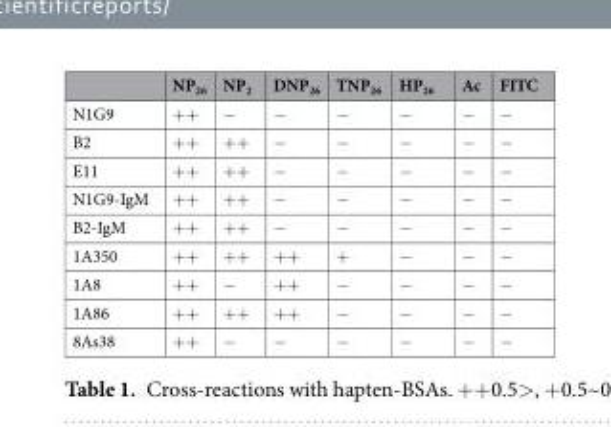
<table><thead><tr><td></td><td>NP<sub>26</sub></td><td>NP<sub>2</sub></td><td>DNP<sub>26</sub></td><td>TNP<sub>26</sub></td><td>HP<sub>26</sub></td><td>Ac</td><td>FITC</td></tr></thead><tbody><tr><td>N1G9</td><td>++</td><td>−</td><td>−</td><td>−</td><td>−</td><td>−</td><td>−</td></tr><tr><td>B2</td><td>++</td><td>++</td><td>−</td><td>−</td><td>−</td><td>−</td><td>−</td></tr><tr><td>E11</td><td>++</td><td>++</td><td>−</td><td>−</td><td>−</td><td>−</td><td>−</td></tr><tr><td>N1G9-IgM</td><td>++</td><td>++</td><td>−</td><td>−</td><td>−</td><td>−</td><td>−</td></tr><tr><td>B2-IgM</td><td>++</td><td>++</td><td>−</td><td>−</td><td>−</td><td>−</td><td>−</td></tr><tr><td>1A350</td><td>++</td><td>++</td><td>++</td><td>+</td><td>−</td><td>−</td><td>−</td></tr><tr><td>1A8</td><td>++</td><td>−</td><td>++</td><td>−</td><td>−</td><td>−</td><td>−</td></tr><tr><td>1A86</td><td>++</td><td>++</td><td>++</td><td>−</td><td>−</td><td>−</td><td>−</td></tr><tr><td>8As38</td><td>++</td><td>−</td><td>−</td><td>−</td><td>−</td><td>−</td><td>−</td></tr></tbody></table>